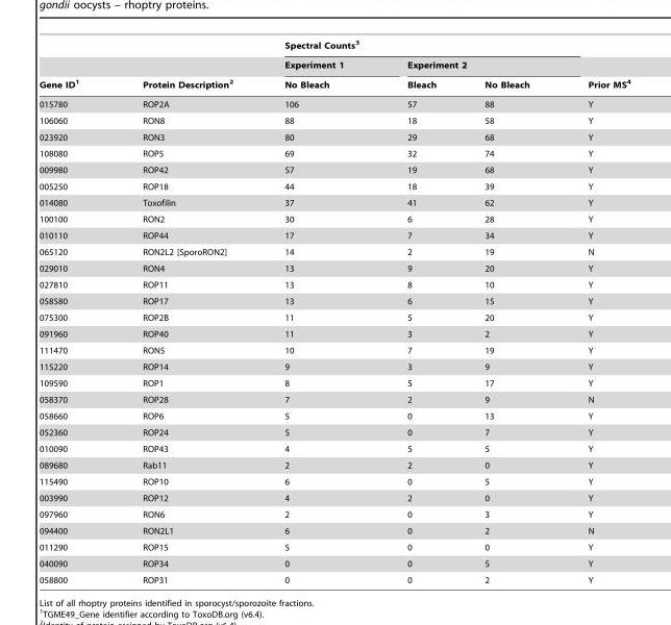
<table><thead><tr><td rowspan="3">Gene ID<sup>1</sup></td><td rowspan="3">Protein Description<sup>2</sup></td><td colspan="3">Spectral Counts<sup>3</sup></td><td rowspan="3">Prior MS<sup>4</sup></td></tr><tr><td rowspan="2">Experiment 1 No Bleach</td><td colspan="2">Experiment 2</td></tr><tr><td>Bleach</td><td>No Bleach</td></tr></thead><tbody><tr><td>015780</td><td>ROP2A</td><td>106</td><td>57</td><td>88</td><td>Y</td></tr><tr><td>106060</td><td>RON8</td><td>88</td><td>18</td><td>58</td><td>Y</td></tr><tr><td>023920</td><td>RON3</td><td>80</td><td>29</td><td>68</td><td>Y</td></tr><tr><td>108080</td><td>ROP5</td><td>69</td><td>32</td><td>74</td><td>Y</td></tr><tr><td>009980</td><td>ROP42</td><td>57</td><td>19</td><td>68</td><td>Y</td></tr><tr><td>005250</td><td>ROP18</td><td>44</td><td>18</td><td>39</td><td>Y</td></tr><tr><td>014080</td><td>Toxofilin</td><td>37</td><td>41</td><td>62</td><td>Y</td></tr><tr><td>100100</td><td>RON2</td><td>30</td><td>6</td><td>28</td><td>Y</td></tr><tr><td>010110</td><td>ROP44</td><td>17</td><td>7</td><td>34</td><td>Y</td></tr><tr><td>065120</td><td>RON2L2 [SporoRON2]</td><td>14</td><td>2</td><td>19</td><td>N</td></tr><tr><td>029010</td><td>RON4</td><td>13</td><td>9</td><td>20</td><td>Y</td></tr><tr><td>027810</td><td>ROP11</td><td>13</td><td>8</td><td>10</td><td>Y</td></tr><tr><td>058580</td><td>ROP17</td><td>13</td><td>6</td><td>15</td><td>Y</td></tr><tr><td>075300</td><td>ROP2B</td><td>11</td><td>5</td><td>20</td><td>Y</td></tr><tr><td>091960</td><td>ROP40</td><td>11</td><td>3</td><td>2</td><td>Y</td></tr><tr><td>111470</td><td>RON5</td><td>10</td><td>7</td><td>19</td><td>Y</td></tr><tr><td>115220</td><td>ROP14</td><td>9</td><td>3</td><td>9</td><td>Y</td></tr><tr><td>109590</td><td>ROP1</td><td>8</td><td>5</td><td>17</td><td>Y</td></tr><tr><td>058370</td><td>ROP28</td><td>7</td><td>2</td><td>9</td><td>N</td></tr><tr><td>058660</td><td>ROP6</td><td>5</td><td>0</td><td>13</td><td>Y</td></tr><tr><td>052360</td><td>ROP24</td><td>5</td><td>0</td><td>7</td><td>Y</td></tr><tr><td>010090</td><td>ROP43</td><td>4</td><td>5</td><td>5</td><td>Y</td></tr><tr><td>089680</td><td>Rab11</td><td>2</td><td>2</td><td>0</td><td>Y</td></tr><tr><td>115490</td><td>ROP10</td><td>6</td><td>0</td><td>5</td><td>Y</td></tr><tr><td>003990</td><td>ROP12</td><td>4</td><td>2</td><td>0</td><td>Y</td></tr><tr><td>097960</td><td>RON6</td><td>2</td><td>0</td><td>3</td><td>Y</td></tr><tr><td>094400</td><td>RON2L1</td><td>6</td><td>0</td><td>2</td><td>N</td></tr><tr><td>011290</td><td>ROP15</td><td>5</td><td>0</td><td>0</td><td>Y</td></tr><tr><td>040090</td><td>ROP34</td><td>0</td><td>0</td><td>5</td><td>Y</td></tr><tr><td>058800</td><td>ROP31</td><td>0</td><td>0</td><td>2</td><td>Y</td></tr></tbody></table>